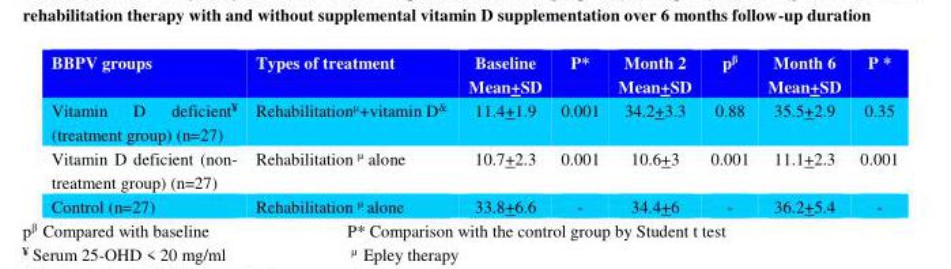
<table><thead><tr><td>BBPV groups</td><td>Types of treatment</td><td>Baseline Mean+SD</td><td>P*</td><td>Month 2 Mean+SD</td><td>pβ</td><td>Month 6 Mean+SD</td><td>P *</td></tr></thead><tbody><tr><td>Vitamin D deficient¥ (treatment group) (n=27)</td><td>Rehabilitationµ+vitamin D&amp;</td><td>11.4+1.9</td><td>0.001</td><td>34.2+3.3</td><td>0.88</td><td>35.5+2.9</td><td>0.35</td></tr><tr><td>Vitamin D deficient (non- treatment group) (n=27)</td><td>Rehabilitation µ alone</td><td>10.7+2.3</td><td>0.001</td><td>10.6+3</td><td>0.001</td><td>11.1+2.3</td><td>0.001</td></tr><tr><td>Control (n=27)</td><td>Rehabilitation µ alone</td><td>33.8+6.6</td><td>-</td><td>34.4+6</td><td>-</td><td>36.2+5.4</td><td>-</td></tr></tbody></table>